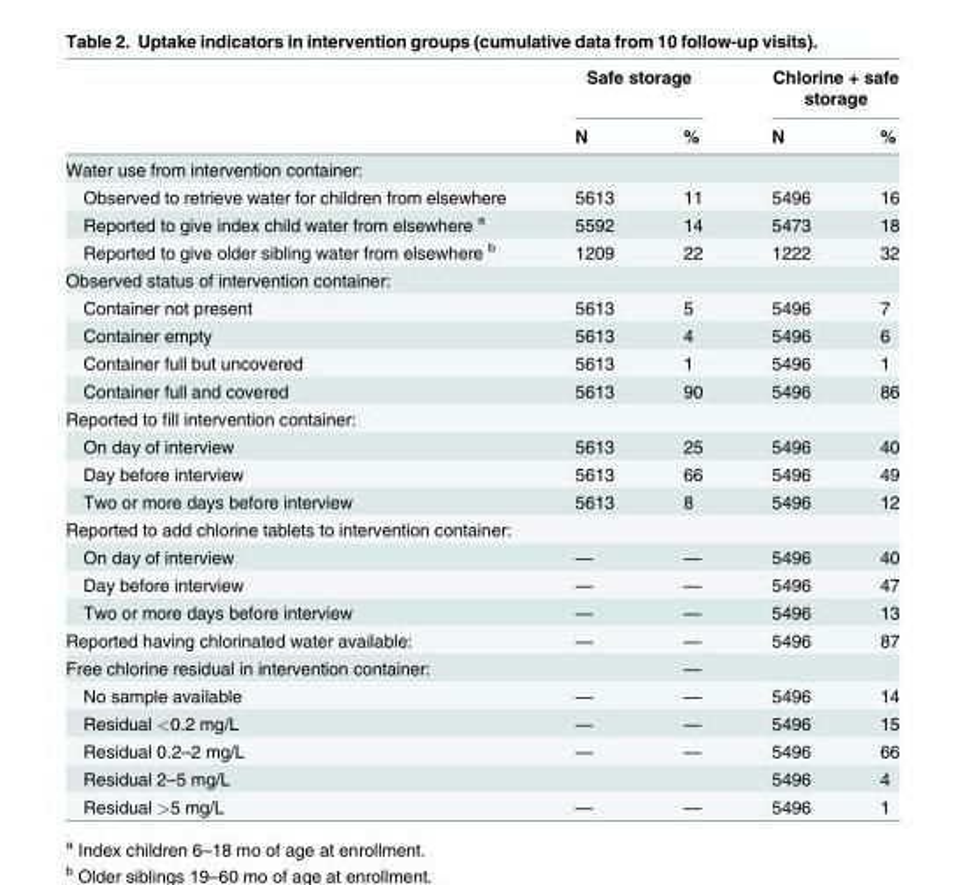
<table><thead><tr><td rowspan="2"></td><td colspan="2">Safe storage</td><td colspan="2">Chlorine + safe storage</td></tr><tr><td>N</td><td>%</td><td>N</td><td>%</td></tr></thead><tbody><tr><td colspan="5">Water use from intervention container:</td></tr><tr><td>Observed to retrieve water for children from elsewhere</td><td>5613</td><td>11</td><td>5496</td><td>16</td></tr><tr><td>Reported to give index child water from elsewhere <sup>a</sup></td><td>5592</td><td>14</td><td>5473</td><td>18</td></tr><tr><td>Reported to give older sibling water from elsewhere <sup>b</sup></td><td>1209</td><td>22</td><td>1222</td><td>32</td></tr><tr><td colspan="5">Observed status of intervention container:</td></tr><tr><td>Container not present</td><td>5613</td><td>5</td><td>5496</td><td>7</td></tr><tr><td>Container empty</td><td>5613</td><td>4</td><td>5496</td><td>6</td></tr><tr><td>Container full but uncovered</td><td>5613</td><td>1</td><td>5496</td><td>1</td></tr><tr><td>Container full and covered</td><td>5613</td><td>90</td><td>5496</td><td>86</td></tr><tr><td colspan="5">Reported to fill intervention container:</td></tr><tr><td>On day of interview</td><td>5613</td><td>25</td><td>5496</td><td>40</td></tr><tr><td>Day before interview</td><td>5613</td><td>66</td><td>5496</td><td>49</td></tr><tr><td>Two or more days before interview</td><td>5613</td><td>8</td><td>5496</td><td>12</td></tr><tr><td colspan="5">Reported to add chlorine tablets to intervention container:</td></tr><tr><td>On day of interview</td><td>—</td><td>—</td><td>5496</td><td>40</td></tr><tr><td>Day before interview</td><td>—</td><td>—</td><td>5496</td><td>47</td></tr><tr><td>Two or more days before interview</td><td>—</td><td>—</td><td>5496</td><td>13</td></tr><tr><td>Reported having chlorinated water available:</td><td>—</td><td>—</td><td>5496</td><td>87</td></tr><tr><td>Free chlorine residual in intervention container:</td><td></td><td>—</td><td></td><td></td></tr><tr><td>No sample available</td><td>—</td><td>—</td><td>5496</td><td>14</td></tr><tr><td>Residual &lt;0.2 mg/L</td><td>—</td><td>—</td><td>5496</td><td>15</td></tr><tr><td>Residual 0.2–2 mg/L</td><td>—</td><td>—</td><td>5496</td><td>66</td></tr><tr><td>Residual 2–5 mg/L</td><td></td><td></td><td>5496</td><td>4</td></tr><tr><td>Residual &gt;5 mg/L</td><td>—</td><td>—</td><td>5496</td><td>1</td></tr></tbody></table>